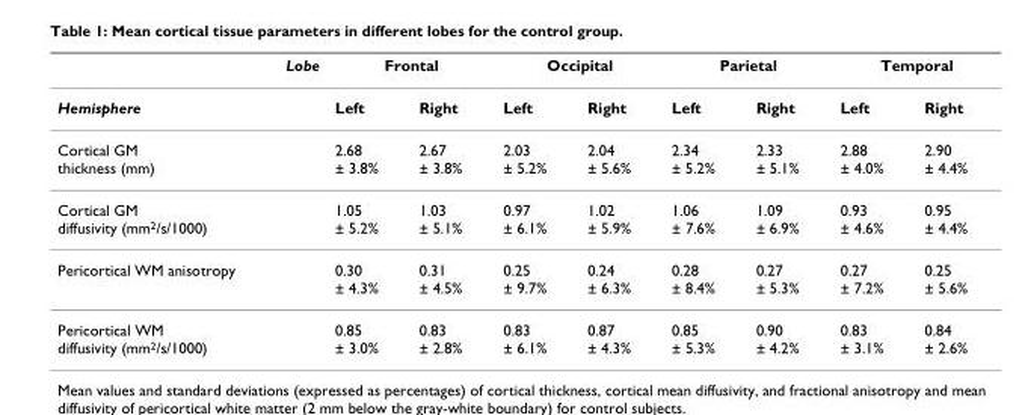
<table><thead><tr><td rowspan="2">Lobe Hemisphere</td><td colspan="2">Frontal</td><td colspan="2">Occipital</td><td colspan="2">Parietal</td><td colspan="2">Temporal</td></tr><tr><td>Left</td><td>Right</td><td>Left</td><td>Right</td><td>Left</td><td>Right</td><td>Left</td><td>Right</td></tr></thead><tbody><tr><td>Cortical GM thickness (mm)</td><td>2.68 ± 3.8%</td><td>2.67 ± 3.8%</td><td>2.03 ± 5.2%</td><td>2.04 ± 5.6%</td><td>2.34 ± 5.2%</td><td>2.33 ± 5.1%</td><td>2.88 ± 4.0%</td><td>2.90 ± 4.4%</td></tr><tr><td>Cortical GM diffusivity (mm<sup>2</sup>/s/1000)</td><td>1.05 ± 5.2%</td><td>1.03 ± 5.1%</td><td>0.97 ± 6.1%</td><td>1.02 ± 5.9%</td><td>1.06 ± 7.6%</td><td>1.09 ± 6.9%</td><td>0.93 ± 4.6%</td><td>0.95 ± 4.4%</td></tr><tr><td>Pericortical WM anisotropy</td><td>0.30 ± 4.3%</td><td>0.31 ± 4.5%</td><td>0.25 ± 9.7%</td><td>0.24 ± 6.3%</td><td>0.28 ± 8.4%</td><td>0.27 ± 5.3%</td><td>0.27 ± 7.2%</td><td>0.25 ± 5.6%</td></tr><tr><td>Pericortical WM diffusivity (mm<sup>2</sup>/s/1000)</td><td>0.85 ± 3.0%</td><td>0.83 ± 2.8%</td><td>0.83 ± 6.1%</td><td>0.87 ± 4.3%</td><td>0.85 ± 5.3%</td><td>0.90 ± 4.2%</td><td>0.83 ± 3.1%</td><td>0.84 ± 2.6%</td></tr></tbody></table>